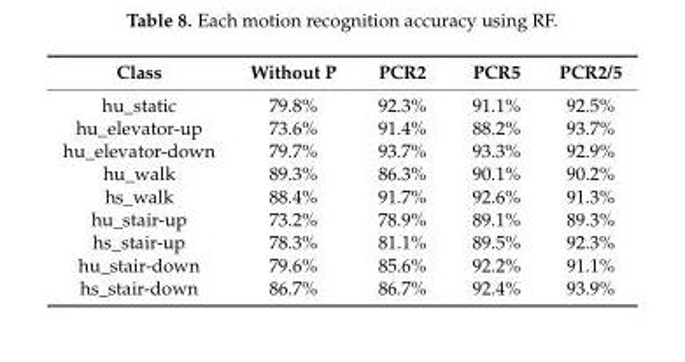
<table><thead><tr><td>Class</td><td>Without P</td><td>PCR2</td><td>PCR5</td><td>PCR2/5</td></tr></thead><tbody><tr><td>hu_static</td><td>79.8%</td><td>92.3%</td><td>91.1%</td><td>92.5%</td></tr><tr><td>hu_elevator-up</td><td>73.6%</td><td>91.4%</td><td>88.2%</td><td>93.7%</td></tr><tr><td>hu_elevator-down</td><td>79.7%</td><td>93.7%</td><td>93.3%</td><td>92.9%</td></tr><tr><td>hu_walk</td><td>89.3%</td><td>86.3%</td><td>90.1%</td><td>90.2%</td></tr><tr><td>hs_walk</td><td>88.4%</td><td>91.7%</td><td>92.6%</td><td>91.3%</td></tr><tr><td>hu_stair-up</td><td>73.2%</td><td>78.9%</td><td>89.1%</td><td>89.3%</td></tr><tr><td>hs_stair-up</td><td>78.3%</td><td>81.1%</td><td>89.5%</td><td>92.3%</td></tr><tr><td>hu_stair-down</td><td>79.6%</td><td>85.6%</td><td>92.2%</td><td>91.1%</td></tr><tr><td>hs_stair-down</td><td>86.7%</td><td>86.7%</td><td>92.4%</td><td>93.9%</td></tr></tbody></table>